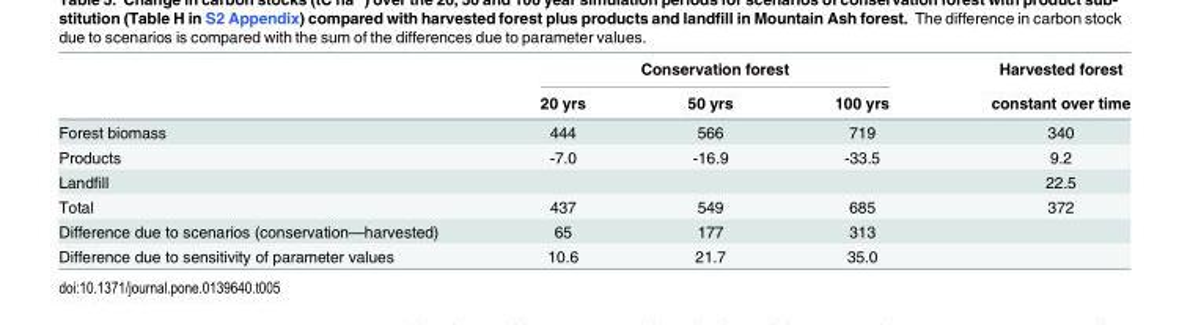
<table><thead><tr><td rowspan="2"></td><td colspan="3">Conservation forest</td><td rowspan="2">Harvested forest constant over time</td></tr><tr><td>20 yrs</td><td>50 yrs</td><td>100 yrs</td></tr></thead><tbody><tr><td>Forest biomass</td><td>444</td><td>566</td><td>719</td><td>340</td></tr><tr><td>Products</td><td>-7.0</td><td>-16.9</td><td>-33.5</td><td>9.2</td></tr><tr><td>Landfill</td><td></td><td></td><td></td><td>22.5</td></tr><tr><td>Total</td><td>437</td><td>549</td><td>685</td><td>372</td></tr><tr><td>Difference due to scenarios (conservation—harvested)</td><td>65</td><td>177</td><td>313</td><td></td></tr><tr><td>Difference due to sensitivity of parameter values</td><td>10.6</td><td>21.7</td><td>35.0</td><td></td></tr></tbody></table>